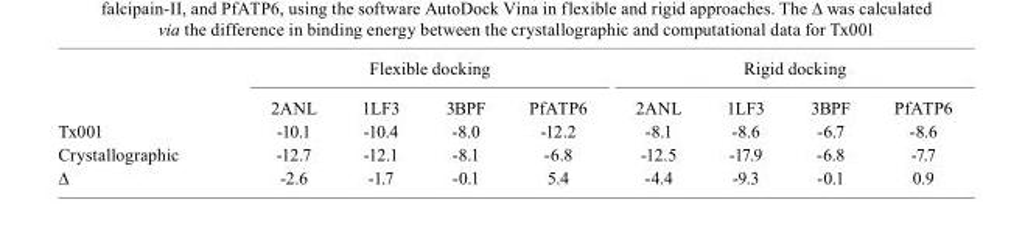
<table><thead><tr><td rowspan="2"></td><td colspan="4">Flexible docking</td><td colspan="4">Rigid docking</td></tr><tr><td>2ANL</td><td>1LF3</td><td>3BPF</td><td>PfATP6</td><td>2ANL</td><td>1LF3</td><td>3BPF</td><td>PfATP6</td></tr></thead><tbody><tr><td>Tx001</td><td>-10.1</td><td>-10.4</td><td>-8.0</td><td>-12.2</td><td>-8.1</td><td>-8.6</td><td>-6.7</td><td>-8.6</td></tr><tr><td>Crystallographic</td><td>-12.7</td><td>-12.1</td><td>-8.1</td><td>-6.8</td><td>-12.5</td><td>-17.9</td><td>-6.8</td><td>-7.7</td></tr><tr><td>∆</td><td>-2.6</td><td>-1.7</td><td>-0.1</td><td>5.4</td><td>-4.4</td><td>-9.3</td><td>-0.1</td><td>0.9</td></tr></tbody></table>